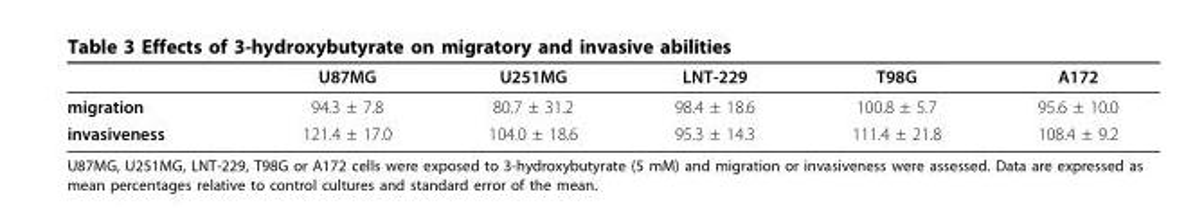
<table><thead><tr><td></td><td>U87MG</td><td>U251MG</td><td>LNT-229</td><td>T98G</td><td>A172</td></tr></thead><tbody><tr><td>migration</td><td>94.3 ± 7.8</td><td>80.7 ± 31.2</td><td>98.4 ± 18.6</td><td>100.8 ± 5.7</td><td>95.6 ± 10.0</td></tr><tr><td>invasiveness</td><td>121.4 ± 17.0</td><td>104.0 ± 18.6</td><td>95.3 ± 14.3</td><td>111.4 ± 21.8</td><td>108.4 ± 9.2</td></tr></tbody></table>